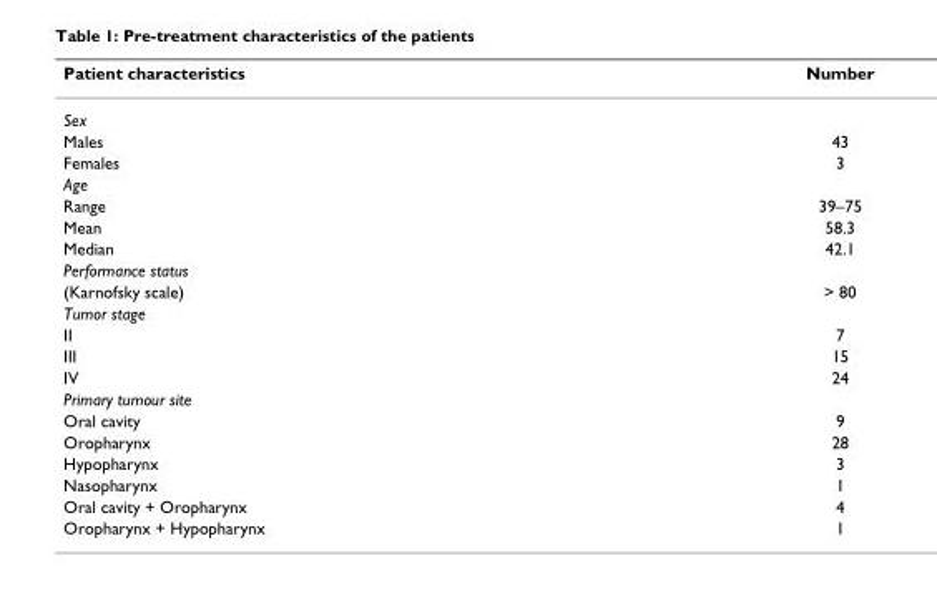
<table><thead><tr><td>Patient characteristics</td><td>Number</td></tr></thead><tbody><tr><td colspan="2">Sex</td></tr><tr><td>Males</td><td>43</td></tr><tr><td>Females</td><td>3</td></tr><tr><td colspan="2">Age</td></tr><tr><td>Range</td><td>39–75</td></tr><tr><td>Mean</td><td>58.3</td></tr><tr><td>Median</td><td>42.1</td></tr><tr><td colspan="2">Performance status</td></tr><tr><td>(Karnofsky scale)</td><td>&gt; 80</td></tr><tr><td colspan="2">Tumor stage</td></tr><tr><td>II</td><td>7</td></tr><tr><td>III</td><td>15</td></tr><tr><td>IV</td><td>24</td></tr><tr><td colspan="2">Primary tumour site</td></tr><tr><td>Oral cavity</td><td>9</td></tr><tr><td>Oropharynx</td><td>28</td></tr><tr><td>Hypopharynx</td><td>3</td></tr><tr><td>Nasopharynx</td><td>1</td></tr><tr><td>Oral cavity + Oropharynx</td><td>4</td></tr><tr><td>Oropharynx + Hypopharynx</td><td>1</td></tr></tbody></table>